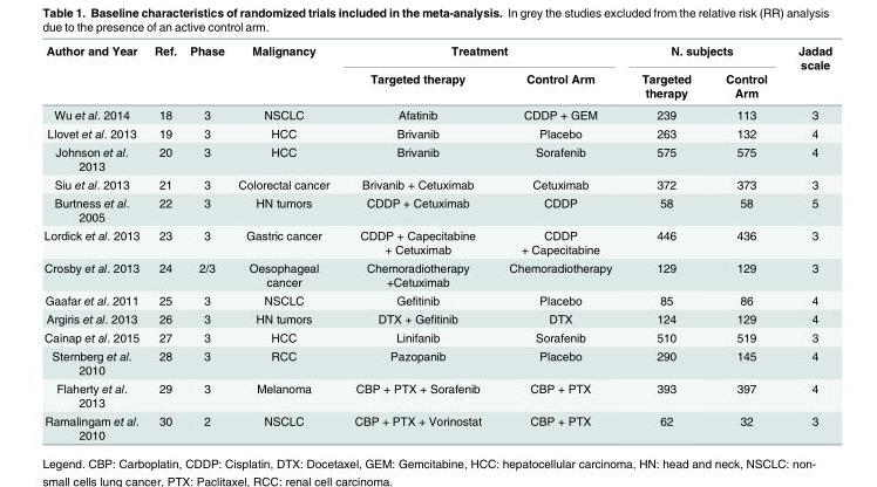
<table><thead><tr><td rowspan="2">Author and Year</td><td rowspan="2">Ref.</td><td rowspan="2">Phase</td><td rowspan="2">Malignancy</td><td colspan="2">Treatment</td><td colspan="2">N. subjects</td><td rowspan="2">Jadad scale</td></tr><tr><td>Targeted therapy</td><td>Control Arm</td><td>Targeted therapy</td><td>Control Arm</td></tr></thead><tbody><tr><td>Wu et al. 2014</td><td>18</td><td>3</td><td>NSCLC</td><td>Afatinib</td><td>CDDP + GEM</td><td>239</td><td>113</td><td>3</td></tr><tr><td>Llovet et al. 2013</td><td>19</td><td>3</td><td>HCC</td><td>Brivanib</td><td>Placebo</td><td>263</td><td>132</td><td>4</td></tr><tr><td>Johnson et al. 2013</td><td>20</td><td>3</td><td>HCC</td><td>Brivanib</td><td>Sorafenib</td><td>575</td><td>575</td><td>4</td></tr><tr><td>Siu et al. 2013</td><td>21</td><td>3</td><td>Colorectal cancer</td><td>Brivanib + Cetuximab</td><td>Cetuximab</td><td>372</td><td>373</td><td>3</td></tr><tr><td>Burtness et al. 2005</td><td>22</td><td>3</td><td>HN tumors</td><td>CDDP + Cetuximab</td><td>CDDP</td><td>58</td><td>58</td><td>5</td></tr><tr><td>Lordick et al. 2013</td><td>23</td><td>3</td><td>Gastric cancer</td><td>CDDP + Capecitabine + Cetuximab</td><td>CDDP + Capecitabine</td><td>446</td><td>436</td><td>3</td></tr><tr><td>Crosby et al. 2013</td><td>24</td><td>2/3</td><td>Oesophageal cancer</td><td>Chemoradiotherapy +Cetuximab</td><td>Chemoradiotherapy</td><td>129</td><td>129</td><td>3</td></tr><tr><td>Gaafar et al. 2011</td><td>25</td><td>3</td><td>NSCLC</td><td>Gefitinib</td><td>Placebo</td><td>85</td><td>86</td><td>4</td></tr><tr><td>Argiris et al. 2013</td><td>26</td><td>3</td><td>HN tumors</td><td>DTX + Gefitinib</td><td>DTX</td><td>124</td><td>129</td><td>4</td></tr><tr><td>Cainap et al. 2015</td><td>27</td><td>3</td><td>HCC</td><td>Linifanib</td><td>Sorafenib</td><td>510</td><td>519</td><td>3</td></tr><tr><td>Sternberg et al. 2010</td><td>28</td><td>3</td><td>RCC</td><td>Pazopanib</td><td>Placebo</td><td>290</td><td>145</td><td>4</td></tr><tr><td>Flaherty et al. 2013</td><td>29</td><td>3</td><td>Melanoma</td><td>CBP + PTX + Sorafenib</td><td>CBP + PTX</td><td>393</td><td>397</td><td>4</td></tr><tr><td>Ramalingam et al. 2010</td><td>30</td><td>2</td><td>NSCLC</td><td>CBP + PTX + Vorinostat</td><td>CBP + PTX</td><td>62</td><td>32</td><td>3</td></tr></tbody></table>